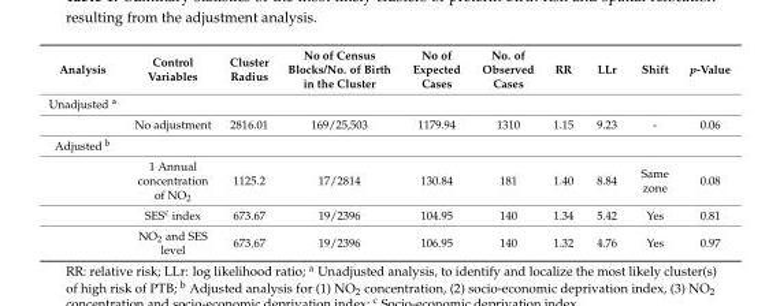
<table><thead><tr><td>Analysis</td><td>Control Variables</td><td>Cluster Radius</td><td>No of Census Blocks/No. of Birth in the Cluster</td><td>No of Expected Cases</td><td>No. of Observed Cases</td><td>RR</td><td>LLr</td><td>Shift</td><td>p-Value</td></tr></thead><tbody><tr><td colspan="10">Unadjusted <sup>a</sup></td></tr><tr><td></td><td>No adjustment</td><td>2816.01</td><td>169/25,503</td><td>1179.94</td><td>1310</td><td>1.15</td><td>9.23</td><td>-</td><td>0.06</td></tr><tr><td colspan="10">Adjusted <sup>b</sup></td></tr><tr><td></td><td>1 Annual concentration of NO<sub>2</sub></td><td>1125.2</td><td>17/2814</td><td>130.84</td><td>181</td><td>1.40</td><td>8.84</td><td>Same zone</td><td>0.08</td></tr><tr><td></td><td>SES<sup>c</sup> index</td><td>673.67</td><td>19/2396</td><td>104.95</td><td>140</td><td>1.34</td><td>5.42</td><td>Yes</td><td>0.81</td></tr><tr><td></td><td>NO<sub>2</sub> and SES level</td><td>673.67</td><td>19/2396</td><td>106.95</td><td>140</td><td>1.32</td><td>4.76</td><td>Yes</td><td>0.97</td></tr></tbody></table>